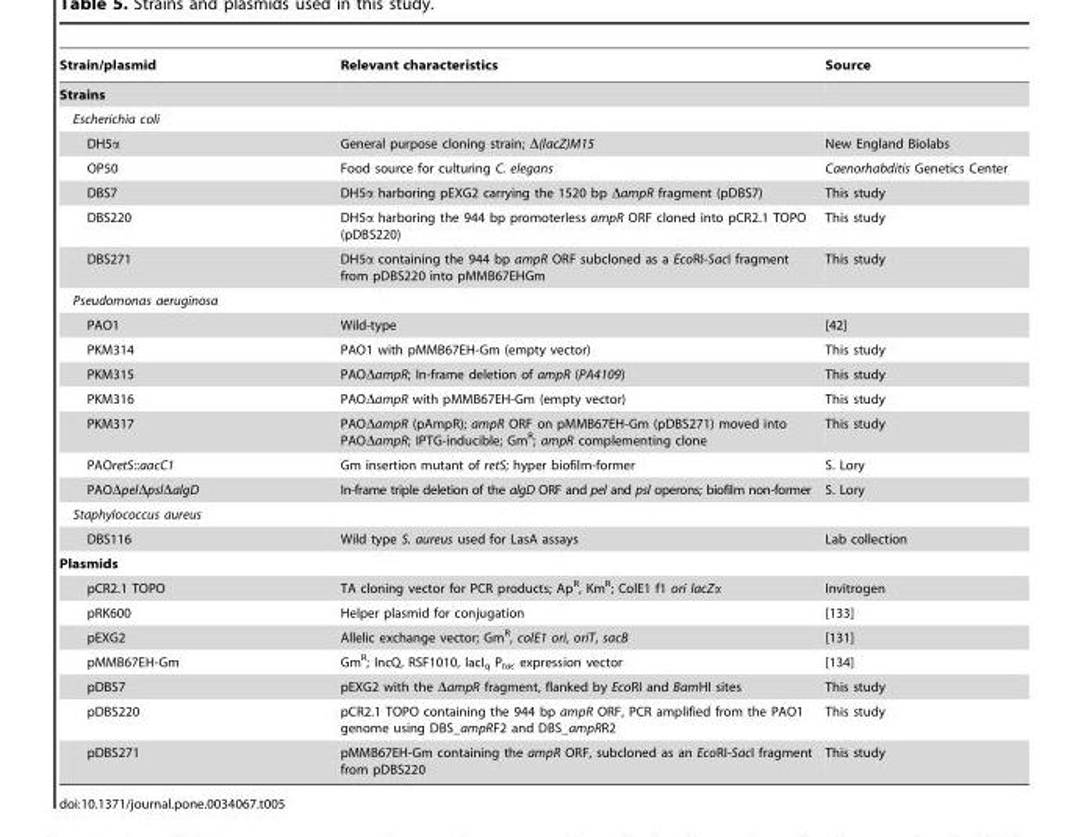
<table><thead><tr><td>Strain/plasmid</td><td>Relevant characteristics</td><td>Source</td></tr></thead><tbody><tr><td colspan="3">Strains</td></tr><tr><td colspan="3">Escherichia coli</td></tr><tr><td>DH5α</td><td>General purpose cloning strain; Δ(lacZ)M15</td><td>New England Biolabs</td></tr><tr><td>OP50</td><td>Food source for culturing C. elegans</td><td>Caenorhabditis Genetics Center</td></tr><tr><td>DBS7</td><td>DH5α harboring pEXG2 carrying the 1520 bp ΔampR fragment (pDBS7)</td><td>This study</td></tr><tr><td>DBS220</td><td>DH5α harboring the 944 bp promoterless ampR ORF cloned into pCR2.1 TOPO (pDBS220)</td><td>This study</td></tr><tr><td>DBS271</td><td>DH5α containing the 944 bp ampR ORF subcloned as a EcoRI-SacI fragment from pDBS220 into pMMB67EHGm</td><td>This study</td></tr><tr><td colspan="3">Pseudomonas aeruginosa</td></tr><tr><td>PAO1</td><td>Wild-type</td><td>[42]</td></tr><tr><td>PKM314</td><td>PAO1 with pMMB67EH-Gm (empty vector)</td><td>This study</td></tr><tr><td>PKM315</td><td>PAOΔampR; In-frame deletion of ampR (PA4109)</td><td>This study</td></tr><tr><td>PKM316</td><td>PAOΔampR with pMMB67EH-Gm (empty vector)</td><td>This study</td></tr><tr><td>PKM317</td><td>PAOΔampR (pAmpR); ampR ORF on pMMB67EH-Gm (pDBS271) moved into PAOΔampR; IPTG-inducible; Gm<sup>R</sup>; ampR complementing clone</td><td>This study</td></tr><tr><td>PAOretS::aacC1</td><td>Gm insertion mutant of retS; hyper biofilm-former</td><td>S. Lory</td></tr><tr><td>PAOΔpelΔpslΔalgD</td><td>In-frame triple deletion of the algD ORF and pel and psl operons; biofilm non-former</td><td>S. Lory</td></tr><tr><td colspan="3">Staphylococcus aureus</td></tr><tr><td>DBS116</td><td>Wild type S. aureus used for LasA assays</td><td>Lab collection</td></tr><tr><td colspan="3">Plasmids</td></tr><tr><td>pCR2.1 TOPO</td><td>TA cloning vector for PCR products; Ap<sup>R</sup>, Km<sup>R</sup>; ColE1 f1 ori lacZα</td><td>Invitrogen</td></tr><tr><td>pRK600</td><td>Helper plasmid for conjugation</td><td>[133]</td></tr><tr><td>pEXG2</td><td>Allelic exchange vector; Gm<sup>R</sup>, colE1 ori, oriT, sacB</td><td>[131]</td></tr><tr><td>pMMB67EH-Gm</td><td>Gm<sup>R</sup>; IncQ, RSF1010, lacI<sub>q</sub> P<sub>tac</sub> expression vector</td><td>[134]</td></tr><tr><td>pDBS7</td><td>pEXG2 with the ΔampR fragment, flanked by EcoRI and BamHI sites</td><td>This study</td></tr><tr><td>pDBS220</td><td>pCR2.1 TOPO containing the 944 bp ampR ORF, PCR amplified from the PAO1 genome using DBS_ampRF2 and DBS_ampRR2</td><td>This study</td></tr><tr><td>pDBS271</td><td>pMMB67EH-Gm containing the ampR ORF, subcloned as an EcoRI-SacI fragment from pDBS220</td><td>This study</td></tr></tbody></table>